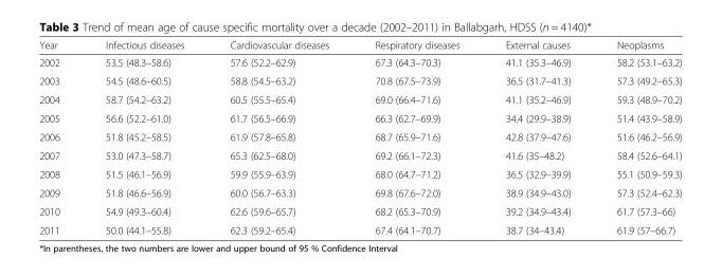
<table><thead><tr><td>Year</td><td>Infectious diseases</td><td>Cardiovascular diseases</td><td>Respiratory diseases</td><td>External causes</td><td>Neoplasms</td></tr></thead><tbody><tr><td>2002</td><td>53.5 (48.3–58.6)</td><td>57.6 (52.2–62.9)</td><td>67.3 (64.3–70.3)</td><td>41.1 (35.3–46.9)</td><td>58.2 (53.1–63.2)</td></tr><tr><td>2003</td><td>54.5 (48.6–60.5)</td><td>58.8 (54.5–63.2)</td><td>70.8 (67.5–73.9)</td><td>36.5 (31.7–41.3)</td><td>57.3 (49.2–65.3)</td></tr><tr><td>2004</td><td>58.7 (54.2–63.2)</td><td>60.5 (55.5–65.4)</td><td>69.0 (66.4–71.6)</td><td>41.1 (35.2–46.9)</td><td>59.3 (48.9–70.2)</td></tr><tr><td>2005</td><td>56.6 (52.2–61.0)</td><td>61.7 (56.5–66.9)</td><td>66.3 (62.7–69.9)</td><td>34.4 (29.9–38.9)</td><td>51.4 (43.9–58.9)</td></tr><tr><td>2006</td><td>51.8 (45.2–58.5)</td><td>61.9 (57.8–65.8)</td><td>68.7 (65.9–71.6)</td><td>42.8 (37.9–47.6)</td><td>51.6 (46.2–56.9)</td></tr><tr><td>2007</td><td>53.0 (47.3–58.7)</td><td>65.3 (62.5–68.0)</td><td>69.2 (66.1–72.3)</td><td>41.6 (35–48.2)</td><td>58.4 (52.6–64.1)</td></tr><tr><td>2008</td><td>51.5 (46.1–56.9)</td><td>59.9 (55.9–63.9)</td><td>68.0 (64.7–71.2)</td><td>36.5 (32.9–39.9)</td><td>55.1 (50.9–59.3)</td></tr><tr><td>2009</td><td>51.8 (46.6–56.9)</td><td>60.0 (56.7–63.3)</td><td>69.8 (67.6–72.0)</td><td>38.9 (34.9–43.0)</td><td>57.3 (52.4–62.3)</td></tr><tr><td>2010</td><td>54.9 (49.3–60.4)</td><td>62.6 (59.6–65.7)</td><td>68.2 (65.3–70.9)</td><td>39.2 (34.9–43.4)</td><td>61.7 (57.3–66)</td></tr><tr><td>2011</td><td>50.0 (44.1–55.8)</td><td>62.3 (59.2–65.4)</td><td>67.4 (64.1–70.7)</td><td>38.7 (34–43.4)</td><td>61.9 (57–66.7)</td></tr></tbody></table>